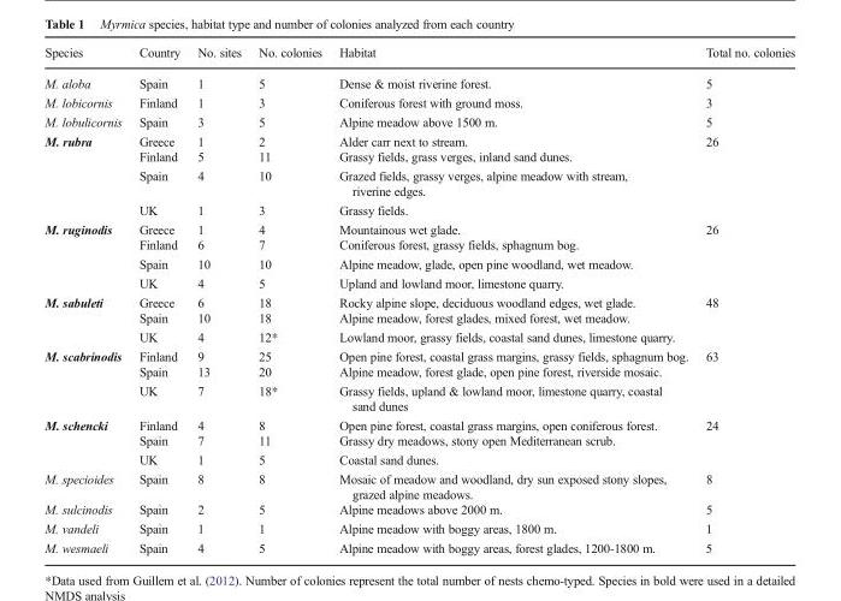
<table><thead><tr><td>Species</td><td>Country</td><td>No. sites</td><td>No. colonies</td><td>Habitat</td><td>Total no. colonies</td></tr></thead><tbody><tr><td>M. aloba</td><td>Spain</td><td>1</td><td>5</td><td>Dense &amp; moist riverine forest.</td><td>5</td></tr><tr><td>M. lobicornis</td><td>Finland</td><td>1</td><td>3</td><td>Coniferous forest with ground moss.</td><td>3</td></tr><tr><td>M. lobulicornis</td><td>Spain</td><td>3</td><td>5</td><td>Alpine meadow above 1500 m.</td><td>5</td></tr><tr><td rowspan="4">M. rubra</td><td>Greece</td><td>1</td><td>2</td><td>Alder carr next to stream.</td><td rowspan="4">26</td></tr><tr><td>Finland</td><td>5</td><td>11</td><td>Grassy fields, grass verges, inland sand dunes.</td></tr><tr><td>Spain</td><td>4</td><td>10</td><td>Grazed fields, grassy verges, alpine meadow with stream, riverine edges.</td></tr><tr><td>UK</td><td>1</td><td>3</td><td>Grassy fields.</td></tr><tr><td rowspan="4">M. ruginodis</td><td>Greece</td><td>1</td><td>4</td><td>Mountainous wet glade.</td><td rowspan="4">26</td></tr><tr><td>Finland</td><td>6</td><td>7</td><td>Coniferous forest, grassy fields, sphagnum bog.</td></tr><tr><td>Spain</td><td>10</td><td>10</td><td>Alpine meadow, glade, open pine woodland, wet meadow.</td></tr><tr><td>UK</td><td>4</td><td>5</td><td>Upland and lowland moor, limestone quarry.</td></tr><tr><td rowspan="3">M. sabuleti</td><td>Greece</td><td>6</td><td>18</td><td>Rocky alpine slope, deciduous woodland edges, wet glade.</td><td rowspan="3">48</td></tr><tr><td>Spain</td><td>10</td><td>18</td><td>Alpine meadow, forest glades, mixed forest, wet meadow.</td></tr><tr><td>UK</td><td>4</td><td>12*</td><td>Lowland moor, grassy fields, coastal sand dunes, limestone quarry.</td></tr><tr><td rowspan="3">M. scabrinodis</td><td>Finland</td><td>9</td><td>25</td><td>Open pine forest, coastal grass margins, grassy fields, sphagnum bog.</td><td rowspan="3">63</td></tr><tr><td>Spain</td><td>13</td><td>20</td><td>Alpine meadow, forest glade, open pine forest, riverside mosaic.</td></tr><tr><td>UK</td><td>7</td><td>18*</td><td>Grassy fields, upland &amp; lowland moor, limestone quarry, coastal sand dunes</td></tr><tr><td rowspan="3">M. schencki</td><td>Finland</td><td>4</td><td>8</td><td>Open pine forest, coastal grass margins, open coniferous forest.</td><td rowspan="3">24</td></tr><tr><td>Spain</td><td>7</td><td>11</td><td>Grassy dry meadows, stony open Mediterranean scrub.</td></tr><tr><td>UK</td><td>1</td><td>5</td><td>Coastal sand dunes.</td></tr><tr><td>M. specioides</td><td>Spain</td><td>8</td><td>8</td><td>Mosaic of meadow and woodland, dry sun exposed stony slopes, grazed alpine meadows.</td><td>8</td></tr><tr><td>M. sulcinodis</td><td>Spain</td><td>2</td><td>5</td><td>Alpine meadows above 2000 m.</td><td>5</td></tr><tr><td>M. vandeli</td><td>Spain</td><td>1</td><td>1</td><td>Alpine meadow with boggy areas, 1800 m.</td><td>1</td></tr><tr><td>M. wesmaeli</td><td>Spain</td><td>4</td><td>5</td><td>Alpine meadow with boggy areas, forest glades, 1200-1800 m.</td><td>5</td></tr></tbody></table>